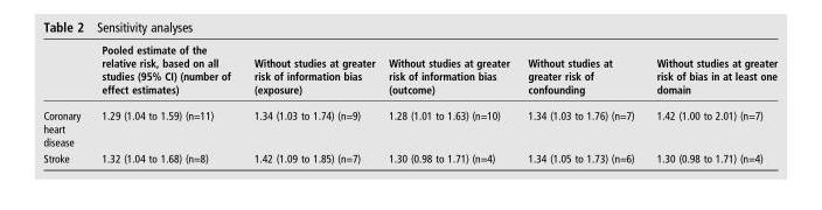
<table><thead><tr><td></td><td>Pooled estimate of the relative risk, based on all studies (95% CI) (number of effect estimates)</td><td>Without studies at greater risk of information bias (exposure)</td><td>Without studies at greater risk of information bias (outcome)</td><td>Without studies at greater risk of confounding</td><td>Without studies at greater risk of bias in at least one domain</td></tr></thead><tbody><tr><td>Coronary heart disease</td><td>1.29 (1.04 to 1.59) (n=11)</td><td>1.34 (1.03 to 1.74) (n=9)</td><td>1.28 (1.01 to 1.63) (n=10)</td><td>1.34 (1.03 to 1.76) (n=7)</td><td>1.42 (1.00 to 2.01) (n=7)</td></tr><tr><td>Stroke</td><td>1.32 (1.04 to 1.68) (n=8)</td><td>1.42 (1.09 to 1.85) (n=7)</td><td>1.30 (0.98 to 1.71) (n=4)</td><td>1.34 (1.05 to 1.73) (n=6)</td><td>1.30 (0.98 to 1.71) (n=4)</td></tr></tbody></table>